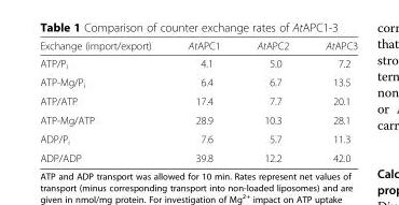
<table><thead><tr><td>Exchange (import/export)</td><td>AtAPC1</td><td>AtAPC2</td><td>AtAPC3</td></tr></thead><tbody><tr><td>ATP/P<sub>i</sub></td><td>4.1</td><td>5.0</td><td>7.2</td></tr><tr><td>ATP-Mg/P<sub>i</sub></td><td>6.4</td><td>6.7</td><td>13.5</td></tr><tr><td>ATP/ATP</td><td>17.4</td><td>7.7</td><td>20.1</td></tr><tr><td>ATP-Mg/ATP</td><td>28.9</td><td>10.3</td><td>28.1</td></tr><tr><td>ADP/P<sub>i</sub></td><td>7.6</td><td>5.7</td><td>11.3</td></tr><tr><td>ADP/ADP</td><td>39.8</td><td>12.2</td><td>42.0</td></tr></tbody></table>